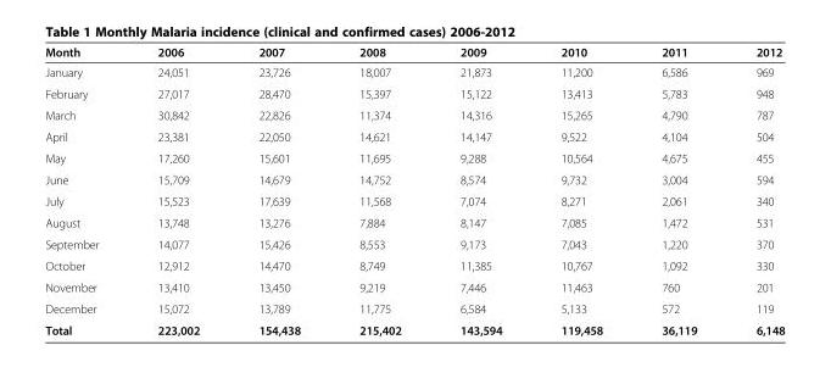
<table><thead><tr><td>Month</td><td>2006</td><td>2007</td><td>2008</td><td>2009</td><td>2010</td><td>2011</td><td>2012</td></tr></thead><tbody><tr><td>January</td><td>24,051</td><td>23,726</td><td>18,007</td><td>21,873</td><td>11,200</td><td>6,586</td><td>969</td></tr><tr><td>February</td><td>27,017</td><td>28,470</td><td>15,397</td><td>15,122</td><td>13,413</td><td>5,783</td><td>948</td></tr><tr><td>March</td><td>30,842</td><td>22,826</td><td>11,374</td><td>14,316</td><td>15,265</td><td>4,790</td><td>787</td></tr><tr><td>April</td><td>23,381</td><td>22,050</td><td>14,621</td><td>14,147</td><td>9,522</td><td>4,104</td><td>504</td></tr><tr><td>May</td><td>17,260</td><td>15,601</td><td>11,695</td><td>9,288</td><td>10,564</td><td>4,675</td><td>455</td></tr><tr><td>June</td><td>15,709</td><td>14,679</td><td>14,752</td><td>8,574</td><td>9,732</td><td>3,004</td><td>594</td></tr><tr><td>July</td><td>15,523</td><td>17,639</td><td>11,568</td><td>7,074</td><td>8,271</td><td>2,061</td><td>340</td></tr><tr><td>August</td><td>13,748</td><td>13,276</td><td>7,884</td><td>8,147</td><td>7,085</td><td>1,472</td><td>531</td></tr><tr><td>September</td><td>14,077</td><td>15,426</td><td>8,553</td><td>9,173</td><td>7,043</td><td>1,220</td><td>370</td></tr><tr><td>October</td><td>12,912</td><td>14,470</td><td>8,749</td><td>11,385</td><td>10,767</td><td>1,092</td><td>330</td></tr><tr><td>November</td><td>13,410</td><td>13,450</td><td>9,219</td><td>7,446</td><td>11,463</td><td>760</td><td>201</td></tr><tr><td>December</td><td>15,072</td><td>13,789</td><td>11,775</td><td>6,584</td><td>5,133</td><td>572</td><td>119</td></tr><tr><td>Total</td><td>223,002</td><td>154,438</td><td>215,402</td><td>143,594</td><td>119,458</td><td>36,119</td><td>6,148</td></tr></tbody></table>